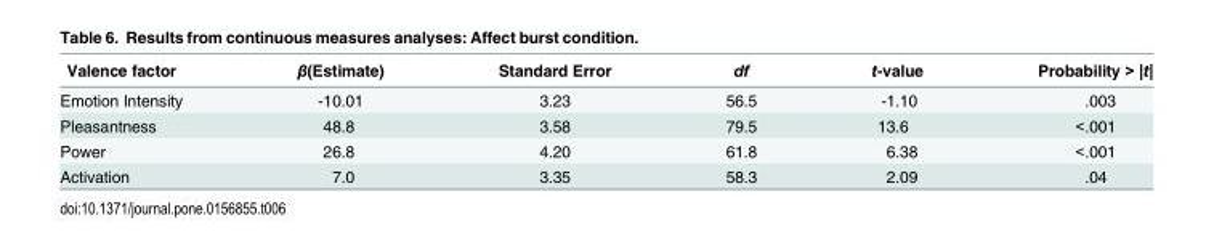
<table><thead><tr><td>Valence factor</td><td>β(Estimate)</td><td>Standard Error</td><td>df</td><td>t-value</td><td>Probability &gt; |t|</td></tr></thead><tbody><tr><td>Emotion Intensity</td><td>-10.01</td><td>3.23</td><td>56.5</td><td>-1.10</td><td>.003</td></tr><tr><td>Pleasantness</td><td>48.8</td><td>3.58</td><td>79.5</td><td>13.6</td><td>&lt;.001</td></tr><tr><td>Power</td><td>26.8</td><td>4.20</td><td>61.8</td><td>6.38</td><td>&lt;.001</td></tr><tr><td>Activation</td><td>7.0</td><td>3.35</td><td>58.3</td><td>2.09</td><td>.04</td></tr></tbody></table>